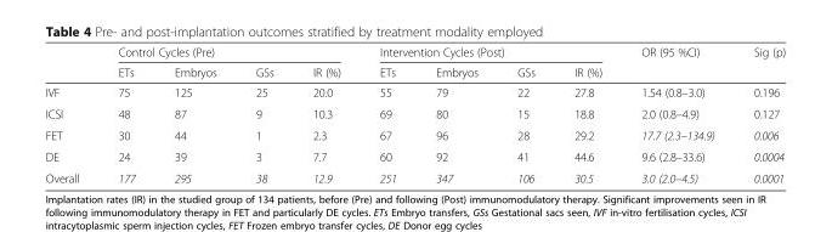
<table><thead><tr><td rowspan="2"></td><td colspan="4">Control Cycles (Pre)</td><td colspan="4">Intervention Cycles (Post)</td><td rowspan="2">OR (95 %CI)</td><td rowspan="2">Sig (p)</td></tr><tr><td>ETs</td><td>Embryos</td><td>GSs</td><td>IR (%)</td><td>ETs</td><td>Embryos</td><td>GSs</td><td>IR (%)</td></tr></thead><tbody><tr><td>IVF</td><td>75</td><td>125</td><td>25</td><td>20.0</td><td>55</td><td>79</td><td>22</td><td>27.8</td><td>1.54 (0.8–3.0)</td><td>0.196</td></tr><tr><td>ICSI</td><td>48</td><td>87</td><td>9</td><td>10.3</td><td>69</td><td>80</td><td>15</td><td>18.8</td><td>2.0 (0.8–4.9)</td><td>0.127</td></tr><tr><td>FET</td><td>30</td><td>44</td><td>1</td><td>2.3</td><td>67</td><td>96</td><td>28</td><td>29.2</td><td>17.7 (2.3–134.9)</td><td>0.006</td></tr><tr><td>DE</td><td>24</td><td>39</td><td>3</td><td>7.7</td><td>60</td><td>92</td><td>41</td><td>44.6</td><td>9.6 (2.8–33.6)</td><td>0.0004</td></tr><tr><td>Overall</td><td>177</td><td>295</td><td>38</td><td>12.9</td><td>251</td><td>347</td><td>106</td><td>30.5</td><td>3.0 (2.0–4.5)</td><td>0.0001</td></tr></tbody></table>